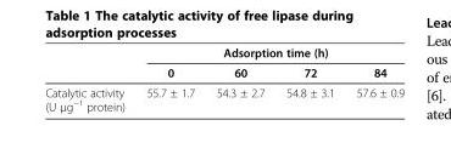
<table><thead><tr><td rowspan="2"></td><td colspan="4">Adsorption time (h)</td></tr><tr><td>0</td><td>60</td><td>72</td><td>84</td></tr></thead><tbody><tr><td>Catalytic activity (U μg<sup>−1</sup> protein)</td><td>55.7 ± 1.7</td><td>54.3 ± 2.7</td><td>54.8 ± 3.1</td><td>57.6 ± 0.9</td></tr></tbody></table>